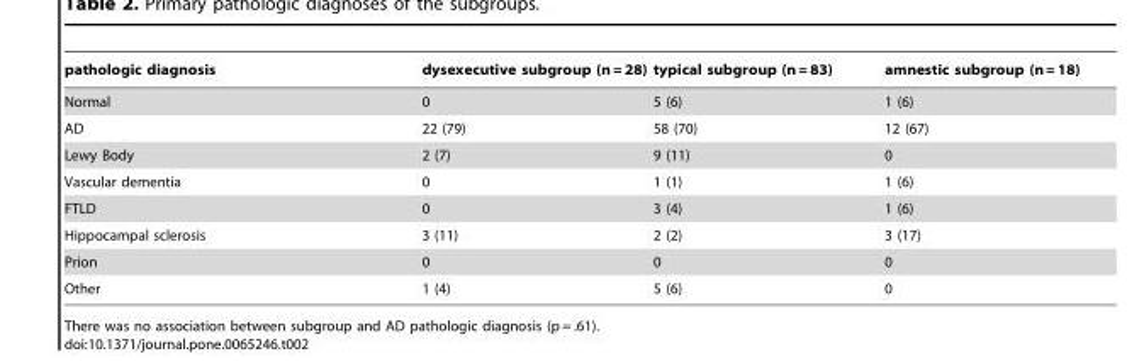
<table><thead><tr><td>pathologic diagnosis</td><td>dysexecutive subgroup (n = 28)</td><td>typical subgroup (n = 83)</td><td>amnestic subgroup (n = 18)</td></tr></thead><tbody><tr><td>Normal</td><td>0</td><td>5 (6)</td><td>1 (6)</td></tr><tr><td>AD</td><td>22 (79)</td><td>58 (70)</td><td>12 (67)</td></tr><tr><td>Lewy Body</td><td>2 (7)</td><td>9 (11)</td><td>0</td></tr><tr><td>Vascular dementia</td><td>0</td><td>1 (1)</td><td>1 (6)</td></tr><tr><td>FTLD</td><td>0</td><td>3 (4)</td><td>1 (6)</td></tr><tr><td>Hippocampal sclerosis</td><td>3 (11)</td><td>2 (2)</td><td>3 (17)</td></tr><tr><td>Prion</td><td>0</td><td>0</td><td>0</td></tr><tr><td>Other</td><td>1 (4)</td><td>5 (6)</td><td>0</td></tr></tbody></table>